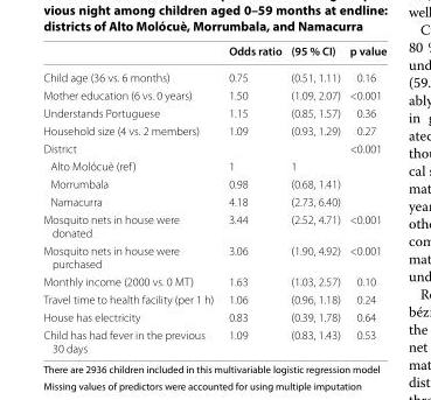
<table><thead><tr><td></td><td>Odds ratio</td><td>(95 % CI)</td><td>p value</td></tr></thead><tbody><tr><td>Child age (36 vs. 6 months)</td><td>0.75</td><td>(0.51, 1.11)</td><td>0.16</td></tr><tr><td>Mother education (6 vs. 0 years)</td><td>1.50</td><td>(1.09, 2.07)</td><td>&lt;0.001</td></tr><tr><td>Understands Portuguese</td><td>1.15</td><td>(0.85, 1.57)</td><td>0.36</td></tr><tr><td>Household size (4 vs. 2 members)</td><td>1.09</td><td>(0.93, 1.29)</td><td>0.27</td></tr><tr><td>District</td><td></td><td></td><td>&lt;0.001</td></tr><tr><td>Alto Molócuè (ref)</td><td>1</td><td>1</td><td></td></tr><tr><td>Morrumbala</td><td>0.98</td><td>(0.68, 1.41)</td><td></td></tr><tr><td>Namacurra</td><td>4.18</td><td>(2.73, 6.40)</td><td></td></tr><tr><td>Mosquito nets in house were donated</td><td>3.44</td><td>(2.52, 4.71)</td><td>&lt;0.001</td></tr><tr><td>Mosquito nets in house were purchased</td><td>3.06</td><td>(1.90, 4.92)</td><td>&lt;0.001</td></tr><tr><td>Monthly income (2000 vs. 0 MT)</td><td>1.63</td><td>(1.03, 2.57)</td><td>0.10</td></tr><tr><td>Travel time to health facility (per 1 h)</td><td>1.06</td><td>(0.96, 1.18)</td><td>0.24</td></tr><tr><td>House has electricity</td><td>0.83</td><td>(0.39, 1.78)</td><td>0.64</td></tr><tr><td>Child has had fever in the previous 30 days</td><td>1.09</td><td>(0.83, 1.43)</td><td>0.53</td></tr></tbody></table>